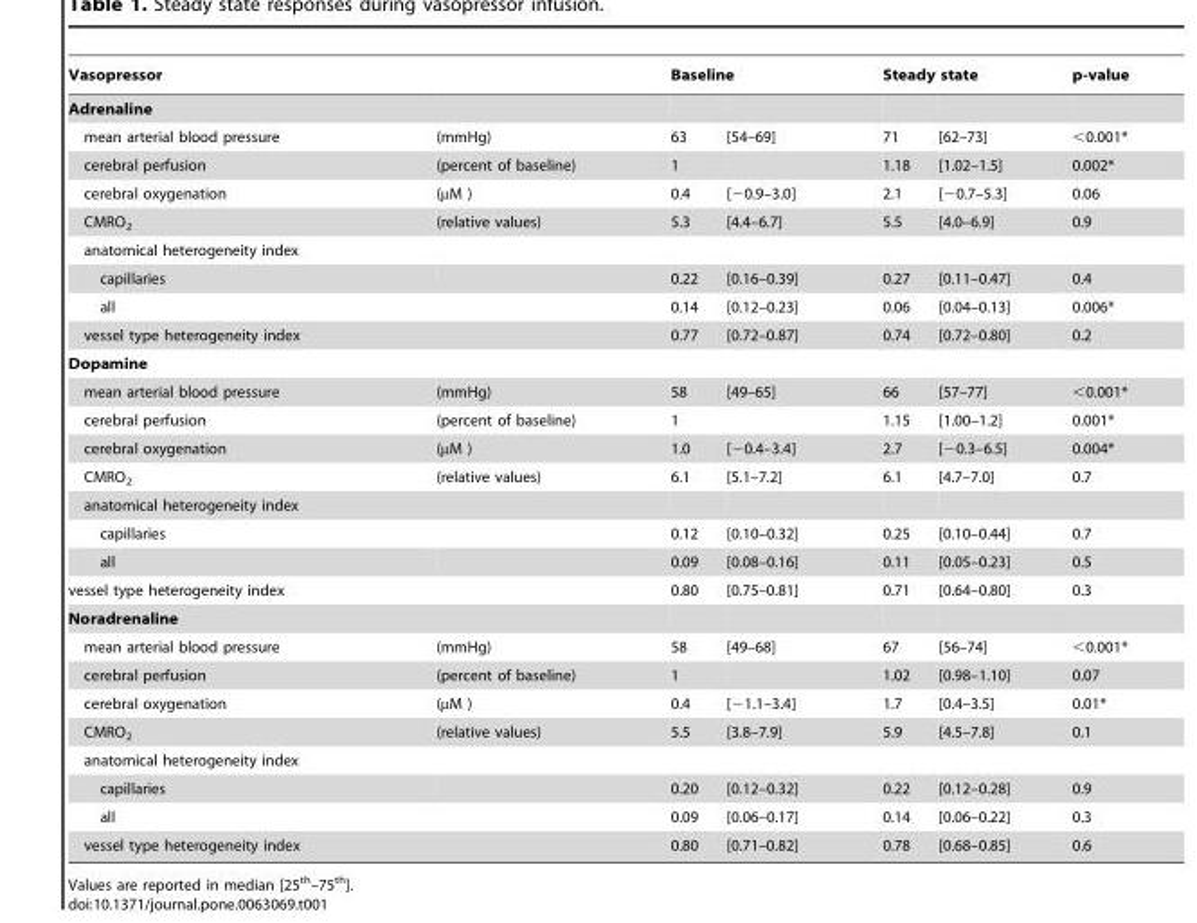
<table><thead><tr><td>Vasopressor</td><td></td><td colspan="2">Baseline</td><td colspan="2">Steady state</td><td rowspan="2">p-value</td></tr><tr><td colspan="2">Adrenaline</td><td></td><td></td><td></td><td></td></tr></thead><tbody><tr><td>mean arterial blood pressure</td><td>(mmHg)</td><td>63</td><td>[54–69]</td><td>71</td><td>[62–73]</td><td>&lt;0.001*</td></tr><tr><td>cerebral perfusion</td><td>(percent of baseline)</td><td>1</td><td></td><td>1.18</td><td>[1.02–1.5]</td><td>0.002*</td></tr><tr><td>cerebral oxygenation</td><td>(µM )</td><td>0.4</td><td>[−0.9–3.0]</td><td>2.1</td><td>[−0.7–5.3]</td><td>0.06</td></tr><tr><td>CMRO<sub>2</sub></td><td>(relative values)</td><td>5.3</td><td>[4.4–6.7]</td><td>5.5</td><td>[4.0–6.9]</td><td>0.9</td></tr><tr><td colspan="7">anatomical heterogeneity index</td></tr><tr><td>capillaries</td><td></td><td>0.22</td><td>[0.16–0.39]</td><td>0.27</td><td>[0.11–0.47]</td><td>0.4</td></tr><tr><td>all</td><td></td><td>0.14</td><td>[0.12–0.23]</td><td>0.06</td><td>[0.04–0.13]</td><td>0.006*</td></tr><tr><td colspan="2">vessel type heterogeneity index</td><td>0.77</td><td>[0.72–0.87]</td><td>0.74</td><td>[0.72–0.80]</td><td>0.2</td></tr><tr><td colspan="7">Dopamine</td></tr><tr><td>mean arterial blood pressure</td><td>(mmHg)</td><td>58</td><td>[49–65]</td><td>66</td><td>[57–77]</td><td>&lt;0.001*</td></tr><tr><td>cerebral perfusion</td><td>(percent of baseline)</td><td>1</td><td></td><td>1.15</td><td>[1.00–1.2]</td><td>0.001*</td></tr><tr><td>cerebral oxygenation</td><td>(µM )</td><td>1.0</td><td>[−0.4–3.4]</td><td>2.7</td><td>[−0.3–6.5]</td><td>0.004*</td></tr><tr><td>CMRO<sub>2</sub></td><td>(relative values)</td><td>6.1</td><td>[5.1–7.2]</td><td>6.1</td><td>[4.7–7.0]</td><td>0.7</td></tr><tr><td colspan="7">anatomical heterogeneity index</td></tr><tr><td>capillaries</td><td></td><td>0.12</td><td>[0.10–0.32]</td><td>0.25</td><td>[0.10–0.44]</td><td>0.7</td></tr><tr><td>all</td><td></td><td>0.09</td><td>[0.08–0.16]</td><td>0.11</td><td>[0.05–0.23]</td><td>0.5</td></tr><tr><td colspan="2">vessel type heterogeneity index</td><td>0.80</td><td>[0.75–0.81]</td><td>0.71</td><td>[0.64–0.80]</td><td>0.3</td></tr><tr><td colspan="7">Noradrenaline</td></tr><tr><td>mean arterial blood pressure</td><td>(mmHg)</td><td>58</td><td>[49–68]</td><td>67</td><td>[56–74]</td><td>&lt;0.001*</td></tr><tr><td>cerebral perfusion</td><td>(percent of baseline)</td><td>1</td><td></td><td>1.02</td><td>[0.98–1.10]</td><td>0.07</td></tr><tr><td>cerebral oxygenation</td><td>(µM )</td><td>0.4</td><td>[−1.1–3.4]</td><td>1.7</td><td>[0.4–3.5]</td><td>0.01*</td></tr><tr><td>CMRO<sub>2</sub></td><td>(relative values)</td><td>5.5</td><td>[3.8–7.9]</td><td>5.9</td><td>[4.5–7.8]</td><td>0.1</td></tr><tr><td colspan="7">anatomical heterogeneity index</td></tr><tr><td>capillaries</td><td></td><td>0.20</td><td>[0.12–0.32]</td><td>0.22</td><td>[0.12–0.28]</td><td>0.9</td></tr><tr><td>all</td><td></td><td>0.09</td><td>[0.06–0.17]</td><td>0.14</td><td>[0.06–0.22]</td><td>0.3</td></tr><tr><td colspan="2">vessel type heterogeneity index</td><td>0.80</td><td>[0.71–0.82]</td><td>0.78</td><td>[0.68–0.85]</td><td>0.6</td></tr></tbody></table>